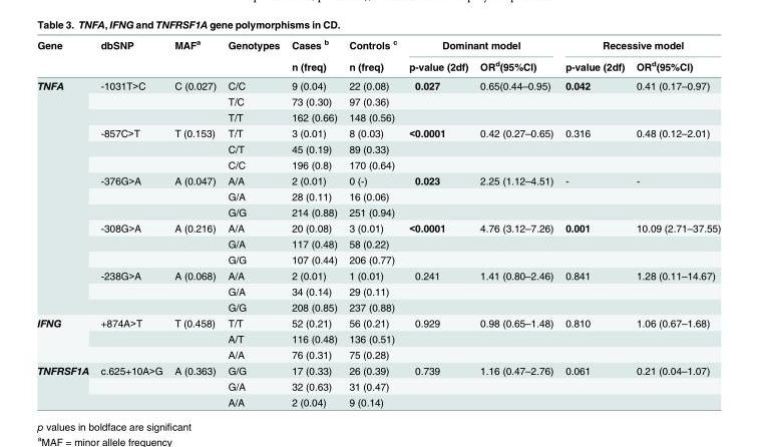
<table><thead><tr><td rowspan="2">Gene</td><td rowspan="2">dbSNP</td><td rowspan="2">MAF<sup>a</sup></td><td rowspan="2">Genotypes</td><td rowspan="2">Cases <sup>b</sup> n (freq)</td><td rowspan="2">Controls <sup>c</sup> n (freq)</td><td colspan="2">Dominant model</td><td colspan="2">Recessive model</td></tr><tr><td>p-value (2df)</td><td>OR<sup>d</sup>(95%CI)</td><td>p-value (2df)</td><td>OR<sup>d</sup>(95%CI)</td></tr></thead><tbody><tr><td rowspan="15">TNFA</td><td>-1031T&gt;C</td><td>C (0.027)</td><td>C/C</td><td>9 (0.04)</td><td>22 (0.08)</td><td>0.027</td><td>0.65(0.44–0.95)</td><td>0.042</td><td>0.41 (0.17–0.97)</td></tr><tr><td></td><td></td><td>T/C</td><td>73 (0.30)</td><td>97 (0.36)</td><td></td><td></td><td></td><td></td></tr><tr><td></td><td></td><td>T/T</td><td>162 (0.66)</td><td>148 (0.56)</td><td></td><td></td><td></td><td></td></tr><tr><td>-857C&gt;T</td><td>T (0.153)</td><td>T/T</td><td>3 (0.01)</td><td>8 (0.03)</td><td>&lt;0.0001</td><td>0.42 (0.27–0.65)</td><td>0.316</td><td>0.48 (0.12–2.01)</td></tr><tr><td></td><td></td><td>C/T</td><td>45 (0.19)</td><td>89 (0.33)</td><td></td><td></td><td></td><td></td></tr><tr><td></td><td></td><td>C/C</td><td>196 (0.8)</td><td>170 (0.64)</td><td></td><td></td><td></td><td></td></tr><tr><td>-376G&gt;A</td><td>A (0.047)</td><td>A/A</td><td>2 (0.01)</td><td>0 (-)</td><td>0.023</td><td>2.25 (1.12–4.51)</td><td>-</td><td>-</td></tr><tr><td></td><td></td><td>G/A</td><td>28 (0.11)</td><td>16 (0.06)</td><td></td><td></td><td></td><td></td></tr><tr><td></td><td></td><td>G/G</td><td>214 (0.88)</td><td>251 (0.94)</td><td></td><td></td><td></td><td></td></tr><tr><td>-308G&gt;A</td><td>A (0.216)</td><td>A/A</td><td>20 (0.08)</td><td>3 (0.01)</td><td>&lt;0.0001</td><td>4.76 (3.12–7.26)</td><td>0.001</td><td>10.09 (2.71–37.55)</td></tr><tr><td></td><td></td><td>G/A</td><td>117 (0.48)</td><td>58 (0.22)</td><td></td><td></td><td></td><td></td></tr><tr><td></td><td></td><td>G/G</td><td>107 (0.44)</td><td>206 (0.77)</td><td></td><td></td><td></td><td></td></tr><tr><td>-238G&gt;A</td><td>A (0.068)</td><td>A/A</td><td>2 (0.01)</td><td>1 (0.01)</td><td>0.241</td><td>1.41 (0.80–2.46)</td><td>0.841</td><td>1.28 (0.11–14.67)</td></tr><tr><td></td><td></td><td>G/A</td><td>34 (0.14)</td><td>29 (0.11)</td><td></td><td></td><td></td><td></td></tr><tr><td></td><td></td><td>G/G</td><td>208 (0.85)</td><td>237 (0.88)</td><td></td><td></td><td></td><td></td></tr><tr><td rowspan="3">IFNG</td><td>+874A&gt;T</td><td>T (0.458)</td><td>T/T</td><td>52 (0.21)</td><td>56 (0.21)</td><td>0.929</td><td>0.98 (0.65–1.48)</td><td>0.810</td><td>1.06 (0.67–1.68)</td></tr><tr><td></td><td></td><td>A/T</td><td>116 (0.48)</td><td>136 (0.51)</td><td></td><td></td><td></td><td></td></tr><tr><td></td><td></td><td>A/A</td><td>76 (0.31)</td><td>75 (0.28)</td><td></td><td></td><td></td><td></td></tr><tr><td rowspan="3">TNFRSF1A</td><td>c.625+10A&gt;G</td><td>A (0.363)</td><td>G/G</td><td>17 (0.33)</td><td>26 (0.39)</td><td>0.739</td><td>1.16 (0.47–2.76)</td><td>0.061</td><td>0.21 (0.04–1.07)</td></tr><tr><td></td><td></td><td>G/A</td><td>32 (0.63)</td><td>31 (0.47)</td><td></td><td></td><td></td><td></td></tr><tr><td></td><td></td><td>A/A</td><td>2 (0.04)</td><td>9 (0.14)</td><td></td><td></td><td></td><td></td></tr></tbody></table>